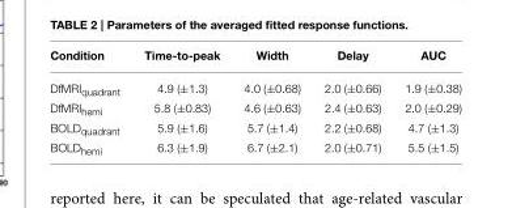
<table><thead><tr><td>Condition</td><td>Time-to-peak</td><td>Width</td><td>Delay</td><td>AUC</td></tr></thead><tbody><tr><td>DfMRIquadrant</td><td>4.9 (±1.3)</td><td>4.0 (±0.68)</td><td>2.0 (±0.66)</td><td>1.9 (±0.38)</td></tr><tr><td>DfMRIhemi</td><td>5.8 (±0.83)</td><td>4.6 (±0.63)</td><td>2.4 (±0.63)</td><td>2.0 (±0.29)</td></tr><tr><td>BOLDquadrant</td><td>5.9 (±1.6)</td><td>5.7 (±1.4)</td><td>2.2 (±0.68)</td><td>4.7 (±1.3)</td></tr><tr><td>BOLDhemi</td><td>6.3 (±1.9)</td><td>6.7 (±2.1)</td><td>2.0 (±0.71)</td><td>5.5 (±1.5)</td></tr></tbody></table>